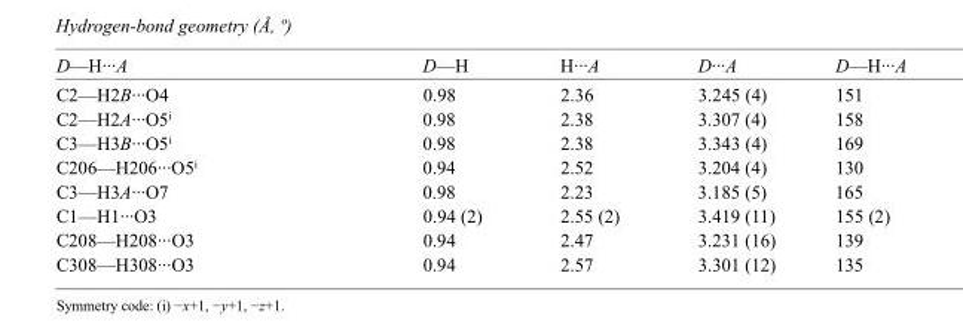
<table><tbody><tr><td>D—H···A</td><td>D—H</td><td>H···A</td><td>D···A</td><td>D—H···A</td></tr><tr><td>C2—H2B···O4</td><td>0.98</td><td>2.36</td><td>3.245 (4)</td><td>151</td></tr><tr><td>C2—H2A···O5<sup>i</sup></td><td>0.98</td><td>2.38</td><td>3.307 (4)</td><td>158</td></tr><tr><td>C3—H3B···O5<sup>i</sup></td><td>0.98</td><td>2.38</td><td>3.343 (4)</td><td>169</td></tr><tr><td>C206—H206···O5<sup>i</sup></td><td>0.94</td><td>2.52</td><td>3.204 (4)</td><td>130</td></tr><tr><td>C3—H3A···O7</td><td>0.98</td><td>2.23</td><td>3.185 (5)</td><td>165</td></tr><tr><td>C1—H1···O3</td><td>0.94 (2)</td><td>2.55 (2)</td><td>3.419 (11)</td><td>155 (2)</td></tr><tr><td>C208—H208···O3</td><td>0.94</td><td>2.47</td><td>3.231 (16)</td><td>139</td></tr><tr><td>C308—H308···O3</td><td>0.94</td><td>2.57</td><td>3.301 (12)</td><td>135</td></tr></tbody></table>